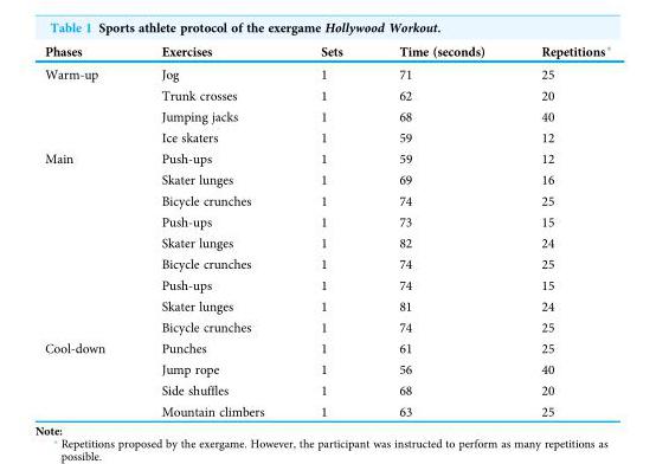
<table><thead><tr><td>Phases</td><td>Exercises</td><td>Sets</td><td>Time (seconds)</td><td>Repetitions*</td></tr></thead><tbody><tr><td rowspan="4">Warm-up</td><td>Jog</td><td>1</td><td>71</td><td>25</td></tr><tr><td>Trunk crosses</td><td>1</td><td>62</td><td>20</td></tr><tr><td>Jumping jacks</td><td>1</td><td>68</td><td>40</td></tr><tr><td>Ice skaters</td><td>1</td><td>59</td><td>12</td></tr><tr><td rowspan="9">Main</td><td>Push-ups</td><td>1</td><td>59</td><td>12</td></tr><tr><td>Skater lunges</td><td>1</td><td>69</td><td>16</td></tr><tr><td>Bicycle crunches</td><td>1</td><td>74</td><td>25</td></tr><tr><td>Push-ups</td><td>1</td><td>73</td><td>15</td></tr><tr><td>Skater lunges</td><td>1</td><td>82</td><td>24</td></tr><tr><td>Bicycle crunches</td><td>1</td><td>74</td><td>25</td></tr><tr><td>Push-ups</td><td>1</td><td>74</td><td>15</td></tr><tr><td>Skater lunges</td><td>1</td><td>81</td><td>24</td></tr><tr><td>Bicycle crunches</td><td>1</td><td>74</td><td>25</td></tr><tr><td rowspan="4">Cool-down</td><td>Punches</td><td>1</td><td>61</td><td>25</td></tr><tr><td>Jump rope</td><td>1</td><td>56</td><td>40</td></tr><tr><td>Side shuffles</td><td>1</td><td>68</td><td>20</td></tr><tr><td>Mountain climbers</td><td>1</td><td>63</td><td>25</td></tr></tbody></table>